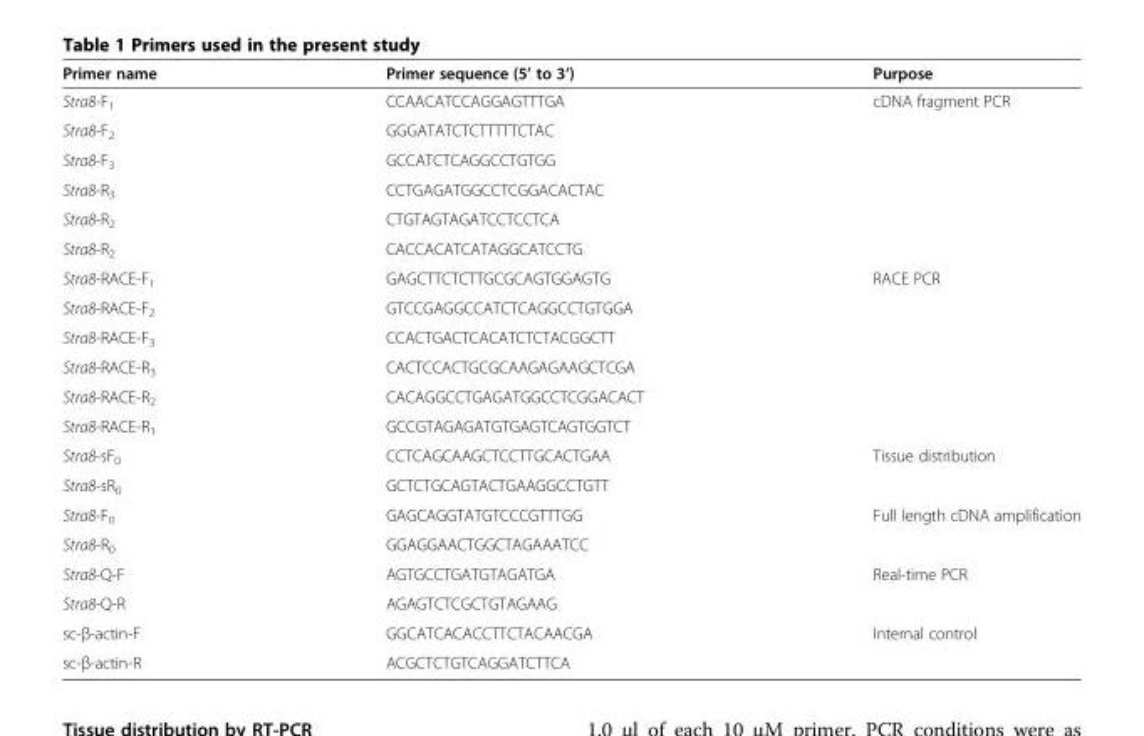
<table><thead><tr><td>Primer name</td><td>Primer sequence (5’ to 3’)</td><td>Purpose</td></tr></thead><tbody><tr><td>Stra8-F<sub>1</sub></td><td>CCAACATCCAGGAGTTTGA</td><td rowspan="6">cDNA fragment PCR</td></tr><tr><td>Stra8-F<sub>2</sub></td><td>GGGATATCTCTTTTTCTAC</td></tr><tr><td>Stra8-F<sub>3</sub></td><td>GCCATCTCAGGCCTGTGG</td></tr><tr><td>Stra8-R<sub>3</sub></td><td>CCTGAGATGGCCTCGGACACTAC</td></tr><tr><td>Stra8-R<sub>2</sub></td><td>CTGTAGTAGATCCTCCTCA</td></tr><tr><td>Stra8-R<sub>2</sub></td><td>CACCACATCATAGGCATCCTG</td></tr><tr><td>Stra8-RACE-F<sub>1</sub></td><td>GAGCTTCTCTTGCGCAGTGGAGTG</td><td rowspan="6">RACE PCR</td></tr><tr><td>Stra8-RACE-F<sub>2</sub></td><td>GTCCGAGGCCATCTCAGGCCTGTGGA</td></tr><tr><td>Stra8-RACE-F<sub>3</sub></td><td>CCACTGACTCACATCTCTACGGCTT</td></tr><tr><td>Stra8-RACE-R<sub>3</sub></td><td>CACTCCACTGCGCAAGAGAAGCTCGA</td></tr><tr><td>Stra8-RACE-R<sub>2</sub></td><td>CACAGGCCTGAGATGGCCTCGGACACT</td></tr><tr><td>Stra8-RACE-R<sub>1</sub></td><td>GCCGTAGAGATGTGAGTCAGTGGTCT</td></tr><tr><td>Stra8-sF<sub>0</sub></td><td>CCTCAGCAAGCTCCTTGCACTGAA</td><td rowspan="2">Tissue distribution</td></tr><tr><td>Stra8-sR<sub>0</sub></td><td>GCTCTGCAGTACTGAAGGCCTGTT</td></tr><tr><td>Stra8-F<sub>0</sub></td><td>GAGCAGGTATGTCCCGTTTGG</td><td rowspan="2">Full length cDNA amplification</td></tr><tr><td>Stra8-R<sub>0</sub></td><td>GGAGGAACTGGCTAGAAATCC</td></tr><tr><td>Stra8-Q-F</td><td>AGTGCCTGATGTAGATGA</td><td rowspan="2">Real-time PCR</td></tr><tr><td>Stra8-Q-R</td><td>AGAGTCTCGCTGTAGAAG</td></tr><tr><td>sc-β-actin-F</td><td>GGCATCACACCTTCTACAACGA</td><td>Internal control</td></tr><tr><td>sc-β-actin-R</td><td>ACGCTCTGTCAGGATCTTCA</td><td></td></tr></tbody></table>